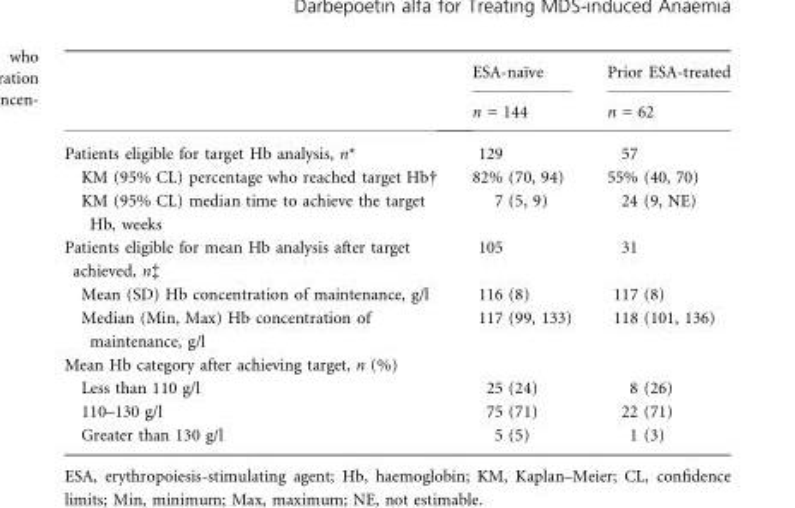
<table><thead><tr><td rowspan="2"></td><td rowspan="2">ESA-naı¨ve n = 144</td><td rowspan="2">Prior ESA-treated n = 62</td></tr><tr></tr></thead><tbody><tr><td>Patients eligible for target Hb analysis, n*</td><td>129</td><td>57</td></tr><tr><td>KM (95% CL) percentage who reached target Hb†</td><td>82% (70, 94)</td><td>55% (40, 70)</td></tr><tr><td>KM (95% CL) median time to achieve the target Hb, weeks</td><td>7 (5, 9)</td><td>24 (9, NE)</td></tr><tr><td>Patients eligible for mean Hb analysis after target achieved, n‡</td><td>105</td><td>31</td></tr><tr><td>Mean (SD) Hb concentration of maintenance, g/l</td><td>116 (8)</td><td>117 (8)</td></tr><tr><td>Median (Min, Max) Hb concentration of maintenance, g/l</td><td>117 (99, 133)</td><td>118 (101, 136)</td></tr><tr><td colspan="3">Mean Hb category after achieving target, n (%)</td></tr><tr><td>Less than 110 g/l</td><td>25 (24)</td><td>8 (26)</td></tr><tr><td>110–130 g/l</td><td>75 (71)</td><td>22 (71)</td></tr><tr><td>Greater than 130 g/l</td><td>5 (5)</td><td>1 (3)</td></tr></tbody></table>